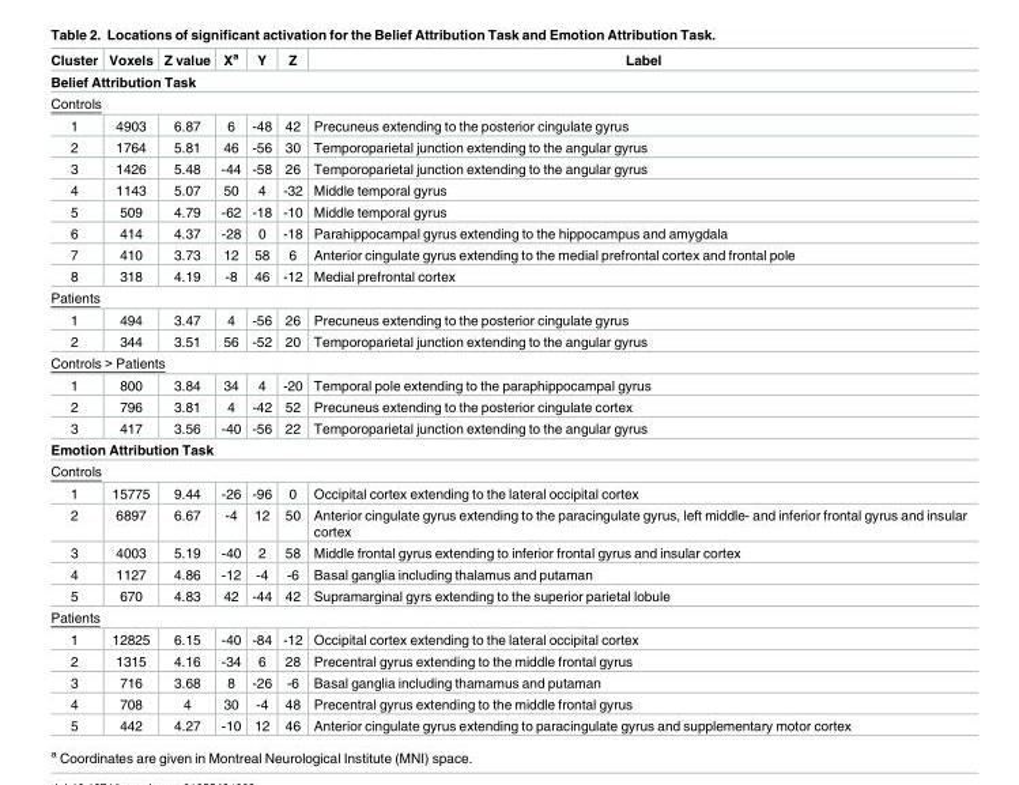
<table><thead><tr><td>Cluster</td><td>Voxels</td><td>Z value</td><td>X<sup>a</sup></td><td>Y</td><td>Z</td><td>Label</td></tr></thead><tbody><tr><td colspan="7">Belief Attribution Task</td></tr><tr><td colspan="7">Controls</td></tr><tr><td>1</td><td>4903</td><td>6.87</td><td>6</td><td>-48</td><td>42</td><td>Precuneus extending to the posterior cingulate gyrus</td></tr><tr><td>2</td><td>1764</td><td>5.81</td><td>46</td><td>-56</td><td>30</td><td>Temporoparietal junction extending to the angular gyrus</td></tr><tr><td>3</td><td>1426</td><td>5.48</td><td>-44</td><td>-58</td><td>26</td><td>Temporoparietal junction extending to the angular gyrus</td></tr><tr><td>4</td><td>1143</td><td>5.07</td><td>50</td><td>4</td><td>-32</td><td>Middle temporal gyrus</td></tr><tr><td>5</td><td>509</td><td>4.79</td><td>-62</td><td>-18</td><td>-10</td><td>Middle temporal gyrus</td></tr><tr><td>6</td><td>414</td><td>4.37</td><td>-28</td><td>0</td><td>-18</td><td>Parahippocampal gyrus extending to the hippocampus and amygdala</td></tr><tr><td>7</td><td>410</td><td>3.73</td><td>12</td><td>58</td><td>6</td><td>Anterior cingulate gyrus extending to the medial prefrontal cortex and frontal pole</td></tr><tr><td>8</td><td>318</td><td>4.19</td><td>-8</td><td>46</td><td>-12</td><td>Medial prefrontal cortex</td></tr><tr><td colspan="7">Patients</td></tr><tr><td>1</td><td>494</td><td>3.47</td><td>4</td><td>-56</td><td>26</td><td>Precuneus extending to the posterior cingulate gyrus</td></tr><tr><td>2</td><td>344</td><td>3.51</td><td>56</td><td>-52</td><td>20</td><td>Temporoparietal junction extending to the angular gyrus</td></tr><tr><td colspan="7">Controls &gt; Patients</td></tr><tr><td>1</td><td>800</td><td>3.84</td><td>34</td><td>4</td><td>-20</td><td>Temporal pole extending to the paraphippocampal gyrus</td></tr><tr><td>2</td><td>796</td><td>3.81</td><td>4</td><td>-42</td><td>52</td><td>Precuneus extending to the posterior cingulate cortex</td></tr><tr><td>3</td><td>417</td><td>3.56</td><td>-40</td><td>-56</td><td>22</td><td>Temporoparietal junction extending to the angular gyrus</td></tr><tr><td colspan="7">Emotion Attribution Task</td></tr><tr><td colspan="7">Controls</td></tr><tr><td>1</td><td>15775</td><td>9.44</td><td>-26</td><td>-96</td><td>0</td><td>Occipital cortex extending to the lateral occipital cortex</td></tr><tr><td>2</td><td>6897</td><td>6.67</td><td>-4</td><td>12</td><td>50</td><td>Anterior cingulate gyrus extending to the paracingulate gyrus, left middle- and inferior frontal gyrus and insular cortex</td></tr><tr><td>3</td><td>4003</td><td>5.19</td><td>-40</td><td>2</td><td>58</td><td>Middle frontal gyrus extending to inferior frontal gyrus and insular cortex</td></tr><tr><td>4</td><td>1127</td><td>4.86</td><td>-12</td><td>-4</td><td>-6</td><td>Basal ganglia including thalamus and putaman</td></tr><tr><td>5</td><td>670</td><td>4.83</td><td>42</td><td>-44</td><td>42</td><td>Supramarginal gyrs extending to the superior parietal lobule</td></tr><tr><td colspan="7">Patients</td></tr><tr><td>1</td><td>12825</td><td>6.15</td><td>-40</td><td>-84</td><td>-12</td><td>Occipital cortex extending to the lateral occipital cortex</td></tr><tr><td>2</td><td>1315</td><td>4.16</td><td>-34</td><td>6</td><td>28</td><td>Precentral gyrus extending to the middle frontal gyrus</td></tr><tr><td>3</td><td>716</td><td>3.68</td><td>8</td><td>-26</td><td>-6</td><td>Basal ganglia including thamamus and putaman</td></tr><tr><td>4</td><td>708</td><td>4</td><td>30</td><td>-4</td><td>48</td><td>Precentral gyrus extending to the middle frontal gyrus</td></tr><tr><td>5</td><td>442</td><td>4.27</td><td>-10</td><td>12</td><td>46</td><td>Anterior cingulate gyrus extending to paracingulate gyrus and supplementary motor cortex</td></tr></tbody></table>